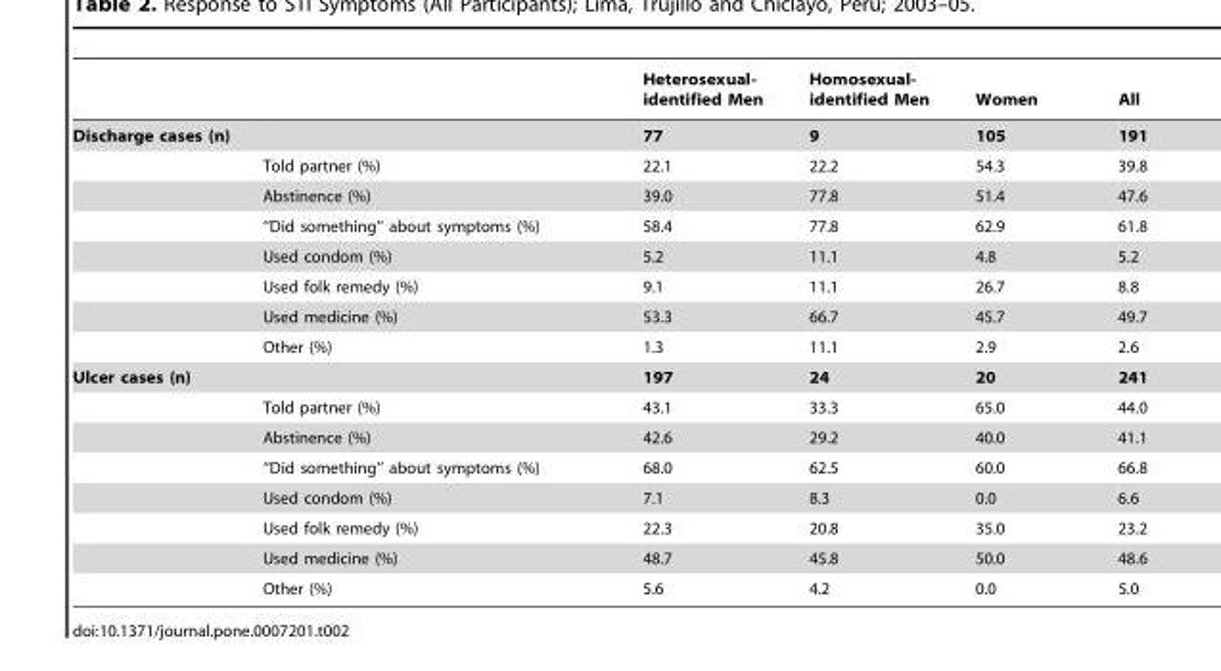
<table><thead><tr><td></td><td></td><td>Heterosexual- identified Men</td><td>Homosexual- identified Men</td><td>Women</td><td>All</td></tr></thead><tbody><tr><td rowspan="8">Discharge cases (n)</td><td></td><td>77</td><td>9</td><td>105</td><td>191</td></tr><tr><td>Told partner (%)</td><td>22.1</td><td>22.2</td><td>54.3</td><td>39.8</td></tr><tr><td>Abstinence (%)</td><td>39.0</td><td>77.8</td><td>51.4</td><td>47.6</td></tr><tr><td>‘‘Did something’’ about symptoms (%)</td><td>58.4</td><td>77.8</td><td>62.9</td><td>61.8</td></tr><tr><td>Used condom (%)</td><td>5.2</td><td>11.1</td><td>4.8</td><td>5.2</td></tr><tr><td>Used folk remedy (%)</td><td>9.1</td><td>11.1</td><td>26.7</td><td>8.8</td></tr><tr><td>Used medicine (%)</td><td>53.3</td><td>66.7</td><td>45.7</td><td>49.7</td></tr><tr><td>Other (%)</td><td>1.3</td><td>11.1</td><td>2.9</td><td>2.6</td></tr><tr><td colspan="2">Ulcer cases (n)</td><td>197</td><td>24</td><td>20</td><td>241</td></tr><tr><td></td><td>Told partner (%)</td><td>43.1</td><td>33.3</td><td>65.0</td><td>44.0</td></tr><tr><td></td><td>Abstinence (%)</td><td>42.6</td><td>29.2</td><td>40.0</td><td>41.1</td></tr><tr><td></td><td>‘‘Did something’’ about symptoms (%)</td><td>68.0</td><td>62.5</td><td>60.0</td><td>66.8</td></tr><tr><td></td><td>Used condom (%)</td><td>7.1</td><td>8.3</td><td>0.0</td><td>6.6</td></tr><tr><td></td><td>Used folk remedy (%)</td><td>22.3</td><td>20.8</td><td>35.0</td><td>23.2</td></tr><tr><td></td><td>Used medicine (%)</td><td>48.7</td><td>45.8</td><td>50.0</td><td>48.6</td></tr><tr><td></td><td>Other (%)</td><td>5.6</td><td>4.2</td><td>0.0</td><td>5.0</td></tr></tbody></table>